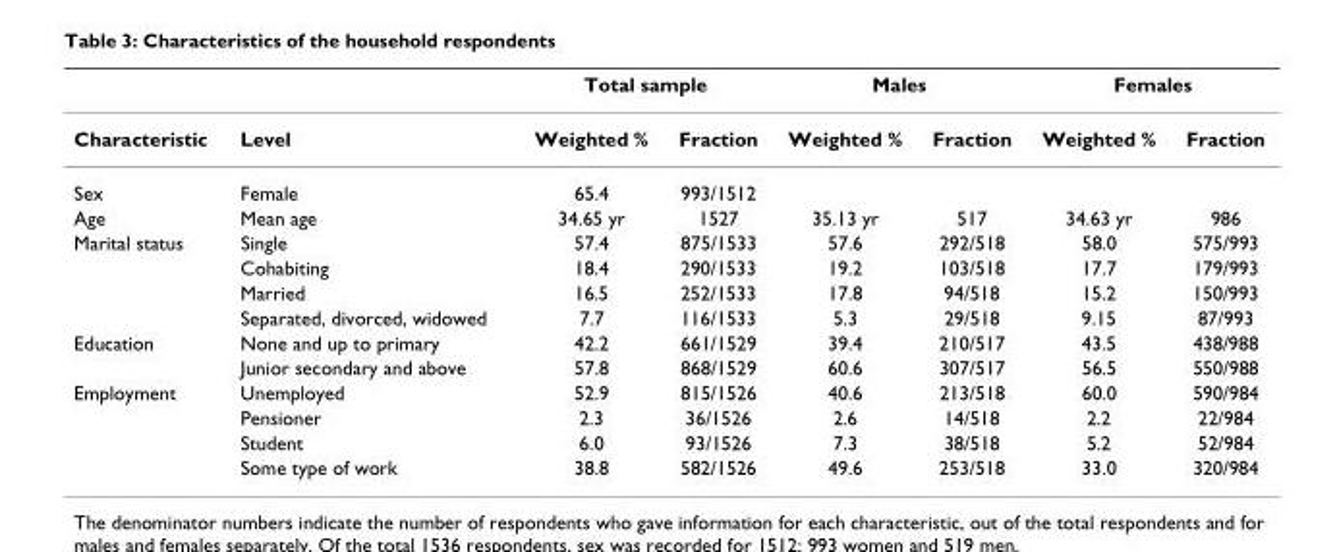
<table><thead><tr><td rowspan="2">Characteristic</td><td rowspan="2">Level</td><td colspan="2">Total sample</td><td colspan="2">Males</td><td colspan="2">Females</td></tr><tr><td>Weighted %</td><td>Fraction</td><td>Weighted %</td><td>Fraction</td><td>Weighted %</td><td>Fraction</td></tr></thead><tbody><tr><td>Sex</td><td>Female</td><td>65.4</td><td>993/1512</td><td></td><td></td><td></td><td></td></tr><tr><td>Age</td><td>Mean age</td><td>34.65 yr</td><td>1527</td><td>35.13 yr</td><td>517</td><td>34.63 yr</td><td>986</td></tr><tr><td rowspan="4">Marital status</td><td>Single</td><td>57.4</td><td>875/1533</td><td>57.6</td><td>292/518</td><td>58.0</td><td>575/993</td></tr><tr><td>Cohabiting</td><td>18.4</td><td>290/1533</td><td>19.2</td><td>103/518</td><td>17.7</td><td>179/993</td></tr><tr><td>Married</td><td>16.5</td><td>252/1533</td><td>17.8</td><td>94/518</td><td>15.2</td><td>150/993</td></tr><tr><td>Separated, divorced, widowed</td><td>7.7</td><td>116/1533</td><td>5.3</td><td>29/518</td><td>9.15</td><td>87/993</td></tr><tr><td rowspan="2">Education</td><td>None and up to primary</td><td>42.2</td><td>661/1529</td><td>39.4</td><td>210/517</td><td>43.5</td><td>438/988</td></tr><tr><td>Junior secondary and above</td><td>57.8</td><td>868/1529</td><td>60.6</td><td>307/517</td><td>56.5</td><td>550/988</td></tr><tr><td rowspan="4">Employment</td><td>Unemployed</td><td>52.9</td><td>815/1526</td><td>40.6</td><td>213/518</td><td>60.0</td><td>590/984</td></tr><tr><td>Pensioner</td><td>2.3</td><td>36/1526</td><td>2.6</td><td>14/518</td><td>2.2</td><td>22/984</td></tr><tr><td>Student</td><td>6.0</td><td>93/1526</td><td>7.3</td><td>38/518</td><td>5.2</td><td>52/984</td></tr><tr><td>Some type of work</td><td>38.8</td><td>582/1526</td><td>49.6</td><td>253/518</td><td>33.0</td><td>320/984</td></tr></tbody></table>